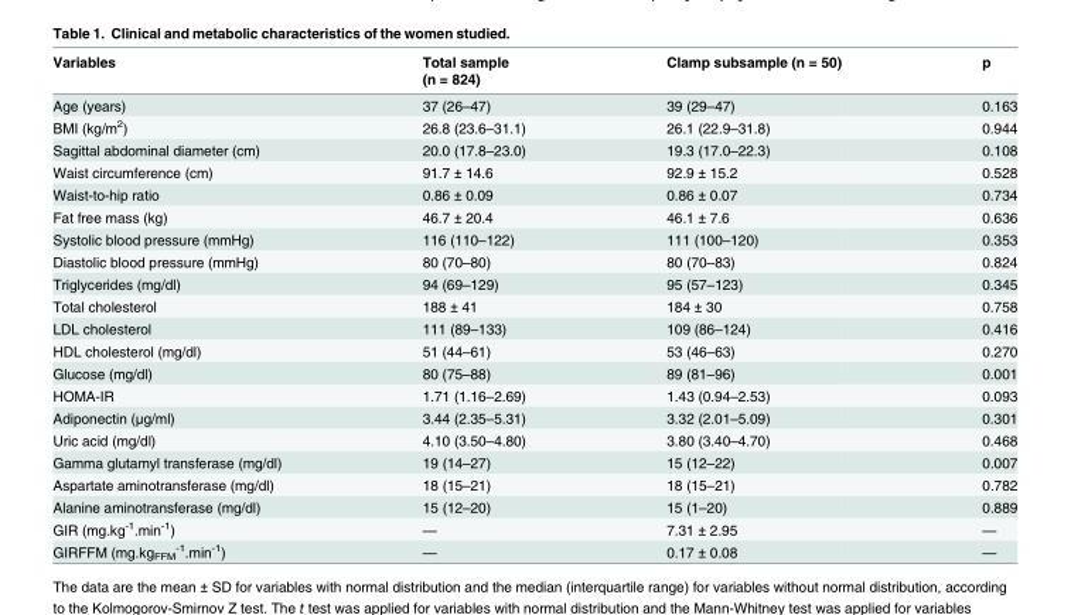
<table><thead><tr><td rowspan="2">Variables</td><td rowspan="2">Total sample (n = 824)</td><td rowspan="2">Clamp subsample (n = 50)</td><td rowspan="2">p</td></tr><tr></tr></thead><tbody><tr><td>Age (years)</td><td>37 (26–47)</td><td>39 (29–47)</td><td>0.163</td></tr><tr><td>BMI (kg/m<sup>2</sup>)</td><td>26.8 (23.6–31.1)</td><td>26.1 (22.9–31.8)</td><td>0.944</td></tr><tr><td>Sagittal abdominal diameter (cm)</td><td>20.0 (17.8–23.0)</td><td>19.3 (17.0–22.3)</td><td>0.108</td></tr><tr><td>Waist circumference (cm)</td><td>91.7 ± 14.6</td><td>92.9 ± 15.2</td><td>0.528</td></tr><tr><td>Waist-to-hip ratio</td><td>0.86 ± 0.09</td><td>0.86 ± 0.07</td><td>0.734</td></tr><tr><td>Fat free mass (kg)</td><td>46.7 ± 20.4</td><td>46.1 ± 7.6</td><td>0.636</td></tr><tr><td>Systolic blood pressure (mmHg)</td><td>116 (110–122)</td><td>111 (100–120)</td><td>0.353</td></tr><tr><td>Diastolic blood pressure (mmHg)</td><td>80 (70–80)</td><td>80 (70–83)</td><td>0.824</td></tr><tr><td>Triglycerides (mg/dl)</td><td>94 (69–129)</td><td>95 (57–123)</td><td>0.345</td></tr><tr><td>Total cholesterol</td><td>188 ± 41</td><td>184 ± 30</td><td>0.758</td></tr><tr><td>LDL cholesterol</td><td>111 (89–133)</td><td>109 (86–124)</td><td>0.416</td></tr><tr><td>HDL cholesterol (mg/dl)</td><td>51 (44–61)</td><td>53 (46–63)</td><td>0.270</td></tr><tr><td>Glucose (mg/dl)</td><td>80 (75–88)</td><td>89 (81–96)</td><td>0.001</td></tr><tr><td>HOMA-IR</td><td>1.71 (1.16–2.69)</td><td>1.43 (0.94–2.53)</td><td>0.093</td></tr><tr><td>Adiponectin (μg/ml)</td><td>3.44 (2.35–5.31)</td><td>3.32 (2.01–5.09)</td><td>0.301</td></tr><tr><td>Uric acid (mg/dl)</td><td>4.10 (3.50–4.80)</td><td>3.80 (3.40–4.70)</td><td>0.468</td></tr><tr><td>Gamma glutamyl transferase (mg/dl)</td><td>19 (14–27)</td><td>15 (12–22)</td><td>0.007</td></tr><tr><td>Aspartate aminotransferase (mg/dl)</td><td>18 (15–21)</td><td>18 (15–21)</td><td>0.782</td></tr><tr><td>Alanine aminotransferase (mg/dl)</td><td>15 (12–20)</td><td>15 (1–20)</td><td>0.889</td></tr><tr><td>GIR (mg.kg<sup>-1</sup>.min<sup>-1</sup>)</td><td>—</td><td>7.31 ± 2.95</td><td>—</td></tr><tr><td>GIRFFM (mg.kg<sub>FFM</sub> <sup>-1</sup>.min<sup>-1</sup>)</td><td>—</td><td>0.17 ± 0.08</td><td>—</td></tr></tbody></table>